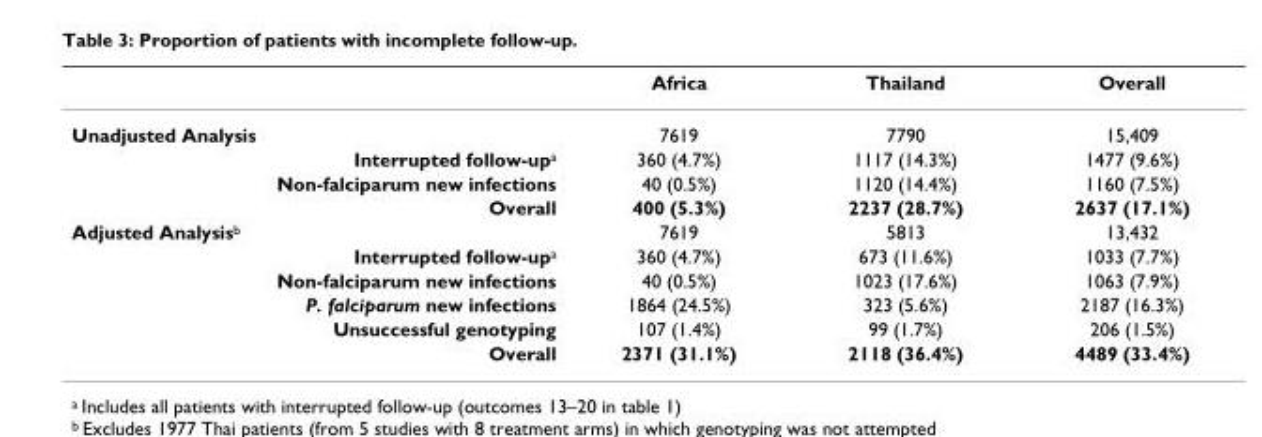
<table><thead><tr><td></td><td>Africa</td><td>Thailand</td><td>Overall</td></tr></thead><tbody><tr><td>Unadjusted Analysis</td><td>7619</td><td>7790</td><td>15,409</td></tr><tr><td>Interrupted follow-up<sup>a</sup></td><td>360 (4.7%)</td><td>1117 (14.3%)</td><td>1477 (9.6%)</td></tr><tr><td>Non-falciparum new infections</td><td>40 (0.5%)</td><td>1120 (14.4%)</td><td>1160 (7.5%)</td></tr><tr><td>Overall</td><td>400 (5.3%)</td><td>2237 (28.7%)</td><td>2637 (17.1%)</td></tr><tr><td>Adjusted Analysis<sup>b</sup></td><td>7619</td><td>5813</td><td>13,432</td></tr><tr><td>Interrupted follow-up<sup>a</sup></td><td>360 (4.7%)</td><td>673 (11.6%)</td><td>1033 (7.7%)</td></tr><tr><td>Non-falciparum new infections</td><td>40 (0.5%)</td><td>1023 (17.6%)</td><td>1063 (7.9%)</td></tr><tr><td>P. falciparum new infections</td><td>1864 (24.5%)</td><td>323 (5.6%)</td><td>2187 (16.3%)</td></tr><tr><td>Unsuccessful genotyping</td><td>107 (1.4%)</td><td>99 (1.7%)</td><td>206 (1.5%)</td></tr><tr><td>Overall</td><td>2371 (31.1%)</td><td>2118 (36.4%)</td><td>4489 (33.4%)</td></tr></tbody></table>